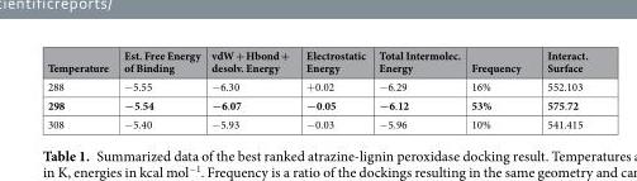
<table><thead><tr><td>Temperature</td><td>Est. Free Energy of Binding</td><td>vdW + Hbond + desolv. Energy</td><td>Electrostatic Energy</td><td>Total Intermolec. Energy</td><td>Frequency</td><td>Interact. Surface</td></tr></thead><tbody><tr><td>288</td><td>−5.55</td><td>−6.30</td><td>+0.02</td><td>−6.29</td><td>16%</td><td>552.103</td></tr><tr><td>298</td><td>−5.54</td><td>−6.07</td><td>−0.05</td><td>−6.12</td><td>53%</td><td>575.72</td></tr><tr><td>308</td><td>−5.40</td><td>−5.93</td><td>−0.03</td><td>−5.96</td><td>10%</td><td>541.415</td></tr></tbody></table>